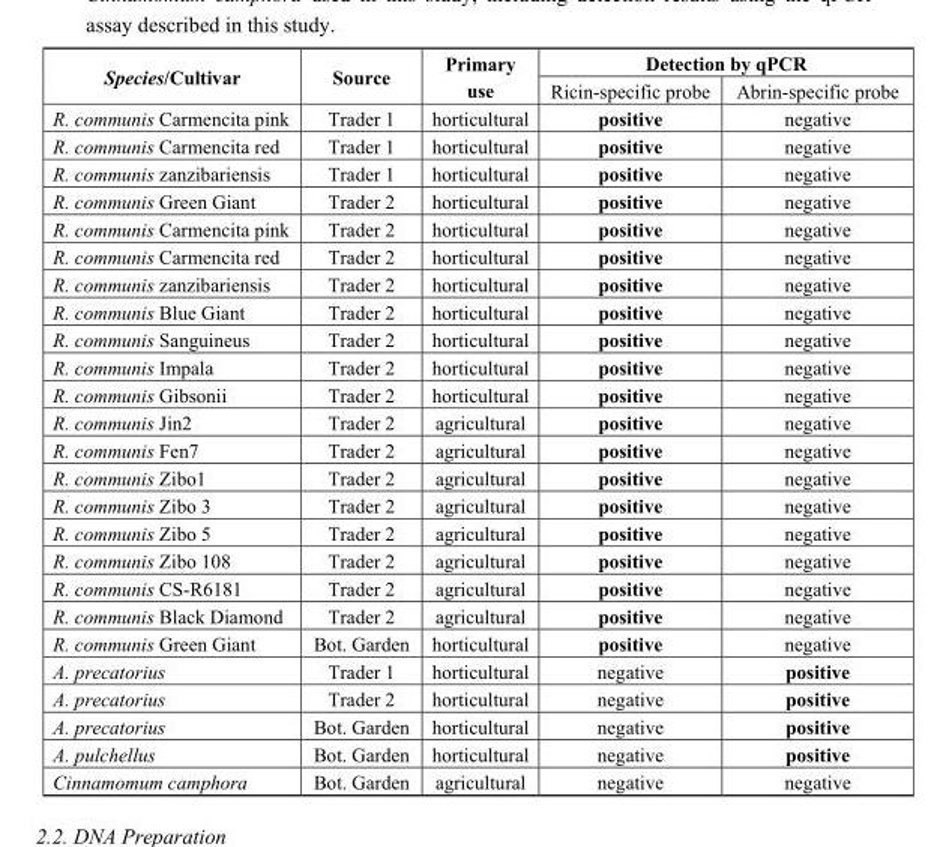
<table><tbody><tr><td rowspan="2">Species/Cultivar</td><td rowspan="2">Source</td><td rowspan="2">Primary use</td><td colspan="2">Detection by qPCR</td></tr><tr><td>Ricin-specific probe</td><td>Abrin-specific probe</td></tr><tr><td>R. communis Carmencita pink</td><td>Trader 1</td><td>horticultural</td><td>positive</td><td>negative</td></tr><tr><td>R. communis Carmencita red</td><td>Trader 1</td><td>horticultural</td><td>positive</td><td>negative</td></tr><tr><td>R. communis zanzibariensis</td><td>Trader 1</td><td>horticultural</td><td>positive</td><td>negative</td></tr><tr><td>R. communis Green Giant</td><td>Trader 2</td><td>horticultural</td><td>positive</td><td>negative</td></tr><tr><td>R. communis Carmencita pink</td><td>Trader 2</td><td>horticultural</td><td>positive</td><td>negative</td></tr><tr><td>R. communis Carmencita red</td><td>Trader 2</td><td>horticultural</td><td>positive</td><td>negative</td></tr><tr><td>R. communis zanzibariensis</td><td>Trader 2</td><td>horticultural</td><td>positive</td><td>negative</td></tr><tr><td>R. communis Blue Giant</td><td>Trader 2</td><td>horticultural</td><td>positive</td><td>negative</td></tr><tr><td>R. communis Sanguineus</td><td>Trader 2</td><td>horticultural</td><td>positive</td><td>negative</td></tr><tr><td>R. communis Impala</td><td>Trader 2</td><td>horticultural</td><td>positive</td><td>negative</td></tr><tr><td>R. communis Gibsonii</td><td>Trader 2</td><td>horticultural</td><td>positive</td><td>negative</td></tr><tr><td>R. communis Jin2</td><td>Trader 2</td><td>agricultural</td><td>positive</td><td>negative</td></tr><tr><td>R. communis Fen7</td><td>Trader 2</td><td>agricultural</td><td>positive</td><td>negative</td></tr><tr><td>R. communis Zibo1</td><td>Trader 2</td><td>agricultural</td><td>positive</td><td>negative</td></tr><tr><td>R. communis Zibo 3</td><td>Trader 2</td><td>agricultural</td><td>positive</td><td>negative</td></tr><tr><td>R. communis Zibo 5</td><td>Trader 2</td><td>agricultural</td><td>positive</td><td>negative</td></tr><tr><td>R. communis Zibo 108</td><td>Trader 2</td><td>agricultural</td><td>positive</td><td>negative</td></tr><tr><td>R. communis CS-R6181</td><td>Trader 2</td><td>agricultural</td><td>positive</td><td>negative</td></tr><tr><td>R. communis Black Diamond</td><td>Trader 2</td><td>agricultural</td><td>positive</td><td>negative</td></tr><tr><td>R. communis Green Giant</td><td>Bot. Garden</td><td>horticultural</td><td>positive</td><td>negative</td></tr><tr><td>A. precatorius</td><td>Trader 1</td><td>horticultural</td><td>negative</td><td>positive</td></tr><tr><td>A. precatorius</td><td>Trader 2</td><td>horticultural</td><td>negative</td><td>positive</td></tr><tr><td>A. precatorius</td><td>Bot. Garden</td><td>horticultural</td><td>negative</td><td>positive</td></tr><tr><td>A. pulchellus</td><td>Bot. Garden</td><td>horticultural</td><td>negative</td><td>positive</td></tr><tr><td>Cinnamomum camphora</td><td>Bot. Garden</td><td>agricultural</td><td>negative</td><td>negative</td></tr></tbody></table>